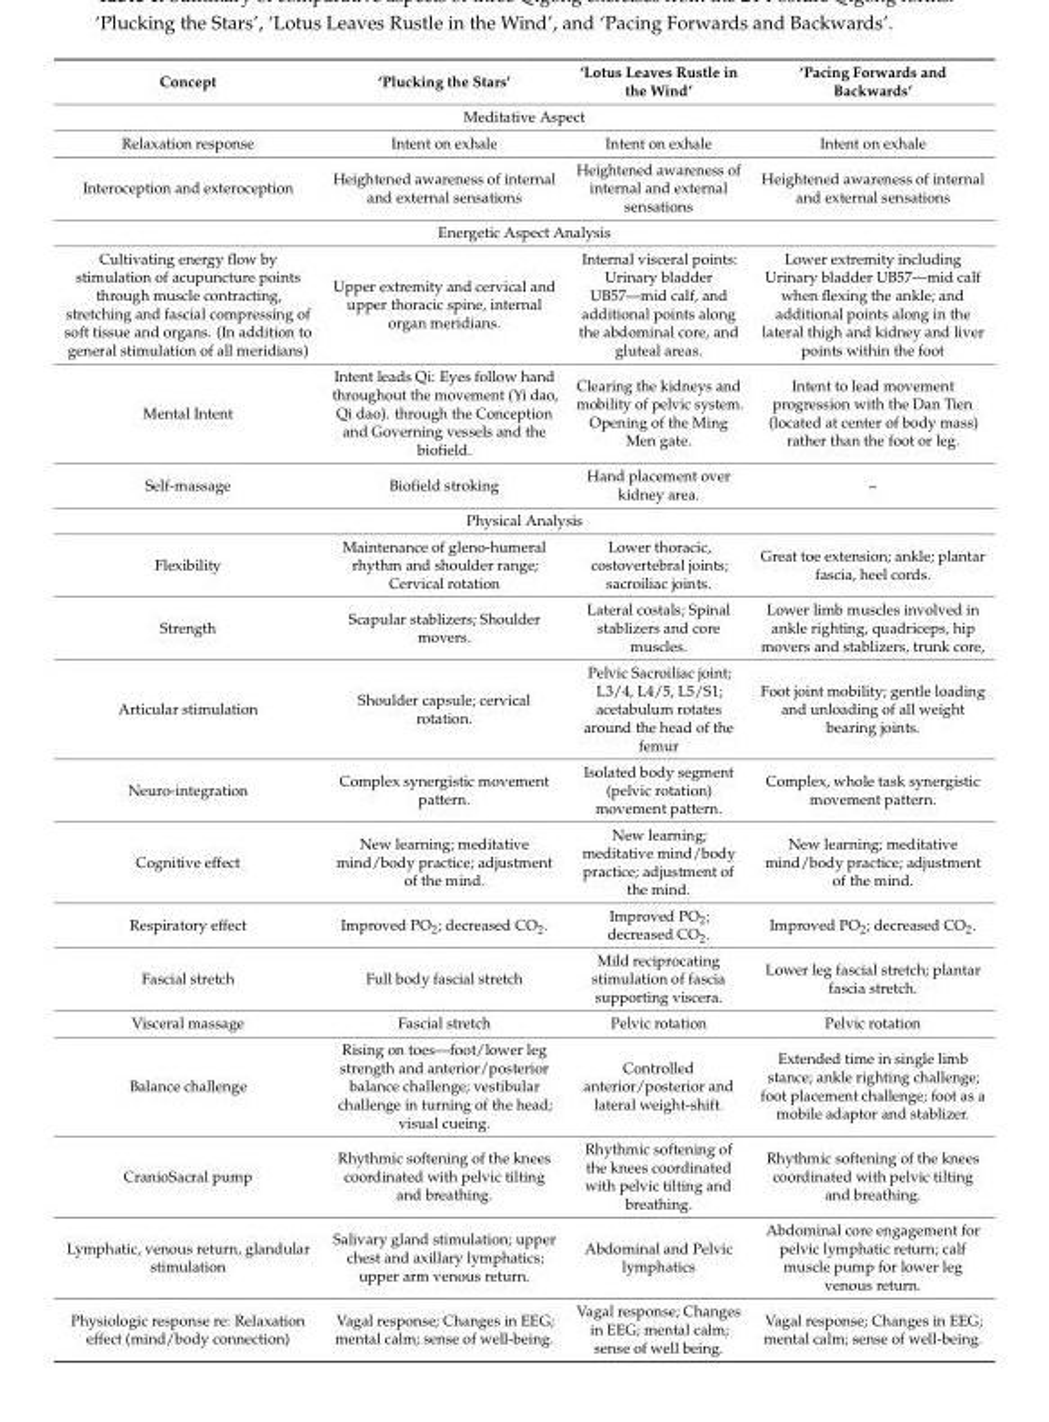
<table><thead><tr><td>Concept</td><td>‘Plucking the Stars’</td><td>‘Lotus Leaves Rustle in the Wind’</td><td>‘Pacing Forwards and Backwards’</td></tr></thead><tbody><tr><td colspan="4">Meditative Aspect</td></tr><tr><td>Relaxation response</td><td>Intent on exhale</td><td>Intent on exhale</td><td>Intent on exhale</td></tr><tr><td>Interoception and exteroception</td><td>Heightened awareness of internal and external sensations</td><td>Heightened awareness of internal and external sensations</td><td>Heightened awareness of internal and external sensations</td></tr><tr><td colspan="4">Energetic Aspect Analysis</td></tr><tr><td>Cultivating energy flow by stimulation of acupuncture points through muscle contracting, stretching and fascial compressing of soft tissue and organs. (In addition to general stimulation of all meridians)</td><td>Upper extremity and cervical and upper thoracic spine, internal organ meridians.</td><td>Internal visceral points: Urinary bladder UB57—mid calf, and additional points along the abdominal core, and gluteal areas.</td><td>Lower extremity including Urinary bladder UB57—mid calf when flexing the ankle; and additional points along in the lateral thigh and kidney and liver points within the foot</td></tr><tr><td>Mental Intent</td><td>Intent leads Qi: Eyes follow hand throughout the movement (Yi dao, Qi dao). through the Conception and Governing vessels and the biofield.</td><td>Clearing the kidneys and mobility of pelvic system. Opening of the Ming Men gate.</td><td>Intent to lead movement progression with the Dan Tien (located at center of body mass) rather than the foot or leg.</td></tr><tr><td>Self-massage</td><td>Biofield stroking</td><td>Hand placement over kidney area.</td><td>–</td></tr><tr><td colspan="4">Physical Analysis</td></tr><tr><td>Flexibility</td><td>Maintenance of gleno-humeral rhythm and shoulder range; Cervical rotation</td><td>Lower thoracic, costovertebral joints; sacroiliac joints.</td><td>Great toe extension; ankle; plantar fascia, heel cords.</td></tr><tr><td>Strength</td><td>Scapular stablizers; Shoulder movers.</td><td>Lateral costals; Spinal stablizers and core muscles.</td><td>Lower limb muscles involved in ankle righting, quadriceps, hip movers and stablizers, trunk core,</td></tr><tr><td>Articular stimulation</td><td>Shoulder capsule; cervical rotation.</td><td>Pelvic Sacroiliac joint; L3/4, L4/5, L5/S1; acetabulum rotates around the head of the femur</td><td>Foot joint mobility; gentle loading and unloading of all weight bearing joints.</td></tr><tr><td>Neuro-integration</td><td>Complex synergistic movement pattern.</td><td>Isolated body segment (pelvic rotation) movement pattern.</td><td>Complex, whole task synergistic movement pattern.</td></tr><tr><td>Cognitive effect</td><td>New learning; meditative mind/body practice; adjustment of the mind.</td><td>New learning; meditative mind/body practice; adjustment of the mind.</td><td>New learning; meditative mind/body practice; adjustment of the mind.</td></tr><tr><td>Respiratory effect</td><td>Improved PO<sub>2</sub>; decreased CO<sub>2</sub>.</td><td>Improved PO<sub>2</sub>; decreased CO<sub>2</sub>.</td><td>Improved PO<sub>2</sub>; decreased CO<sub>2</sub>.</td></tr><tr><td>Fascial stretch</td><td>Full body fascial stretch</td><td>Mild reciprocating stimulation of fascia supporting viscera.</td><td>Lower leg fascial stretch; plantar fascia stretch.</td></tr><tr><td>Visceral massage</td><td>Fascial stretch</td><td>Pelvic rotation</td><td>Pelvic rotation</td></tr><tr><td>Balance challenge</td><td>Rising on toes—foot/lower leg strength and anterior/posterior balance challenge; vestibular challenge in turning of the head; visual cueing.</td><td>Controlled anterior/posterior and lateral weight-shift.</td><td>Extended time in single limb stance; ankle righting challenge; foot placement challenge; foot as a mobile adaptor and stablizer.</td></tr><tr><td>CranioSacral pump</td><td>Rhythmic softening of the knees coordinated with pelvic tilting and breathing.</td><td>Rhythmic softening of the knees coordinated with pelvic tilting and breathing.</td><td>Rhythmic softening of the knees coordinated with pelvic tilting and breathing.</td></tr><tr><td>Lymphatic, venous return, glandular stimulation</td><td>Salivary gland stimulation; upper chest and axillary lymphatics; upper arm venous return.</td><td>Abdominal and Pelvic lymphatics</td><td>Abdominal core engagement for pelvic lymphatic return; calf muscle pump for lower leg venous return.</td></tr><tr><td>Physiologic response re: Relaxation effect (mind/body connection)</td><td>Vagal response; Changes in EEG; mental calm; sense of well-being.</td><td>Vagal response; Changes in EEG; mental calm; sense of well being.</td><td>Vagal response; Changes in EEG; mental calm; sense of well-being.</td></tr></tbody></table>